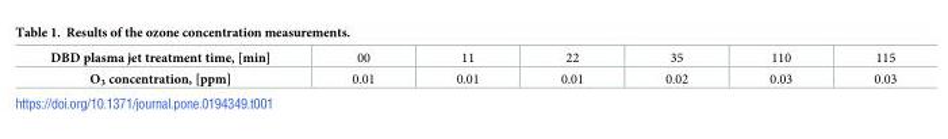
<table><tbody><tr><td>DBD plasma jet treatment time, [min]</td><td>00</td><td>11</td><td>22</td><td>35</td><td>110</td><td>115</td></tr><tr><td>O<sub>3</sub> concentration, [ppm]</td><td>0.01</td><td>0.01</td><td>0.01</td><td>0.02</td><td>0.03</td><td>0.03</td></tr></tbody></table>